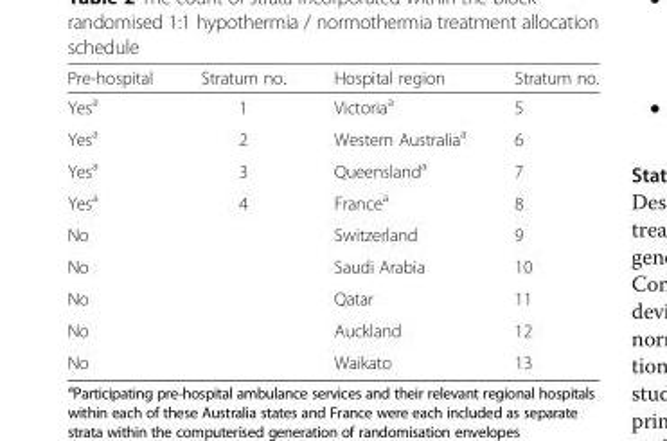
<table><thead><tr><td>Pre-hospital</td><td>Stratum no.</td><td>Hospital region</td><td>Stratum no.</td></tr></thead><tbody><tr><td>Yes<sup>a</sup></td><td>1</td><td>Victoria<sup>a</sup></td><td>5</td></tr><tr><td>Yes<sup>a</sup></td><td>2</td><td>Western Australia<sup>a</sup></td><td>6</td></tr><tr><td>Yes<sup>a</sup></td><td>3</td><td>Queensland<sup>a</sup></td><td>7</td></tr><tr><td>Yes<sup>a</sup></td><td>4</td><td>France<sup>a</sup></td><td>8</td></tr><tr><td>No</td><td></td><td>Switzerland</td><td>9</td></tr><tr><td>No</td><td></td><td>Saudi Arabia</td><td>10</td></tr><tr><td>No</td><td></td><td>Qatar</td><td>11</td></tr><tr><td>No</td><td></td><td>Auckland</td><td>12</td></tr><tr><td>No</td><td></td><td>Waikato</td><td>13</td></tr></tbody></table>